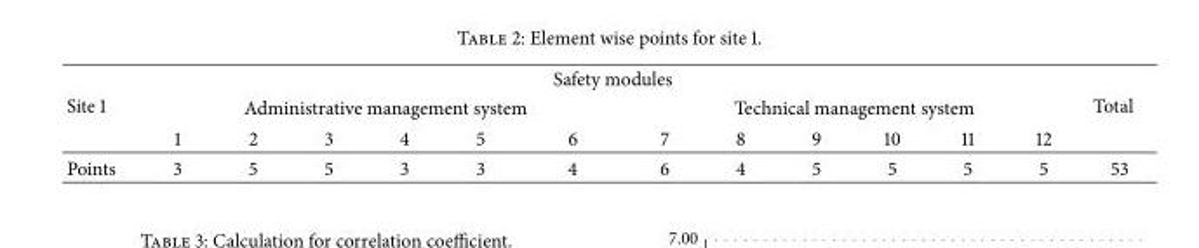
<table><thead><tr><td rowspan="3">Site 1</td><td colspan="12">Safety modules</td><td rowspan="3">Total</td></tr><tr><td colspan="6">Administrative management system</td><td colspan="6">Technical management system</td></tr><tr><td>1</td><td>2</td><td>3</td><td>4</td><td>5</td><td>6</td><td>7</td><td>8</td><td>9</td><td>10</td><td>11</td><td>12</td></tr></thead><tbody><tr><td>Points</td><td>3</td><td>5</td><td>5</td><td>3</td><td>3</td><td>4</td><td>6</td><td>4</td><td>5</td><td>5</td><td>5</td><td>5</td><td>53</td></tr></tbody></table>